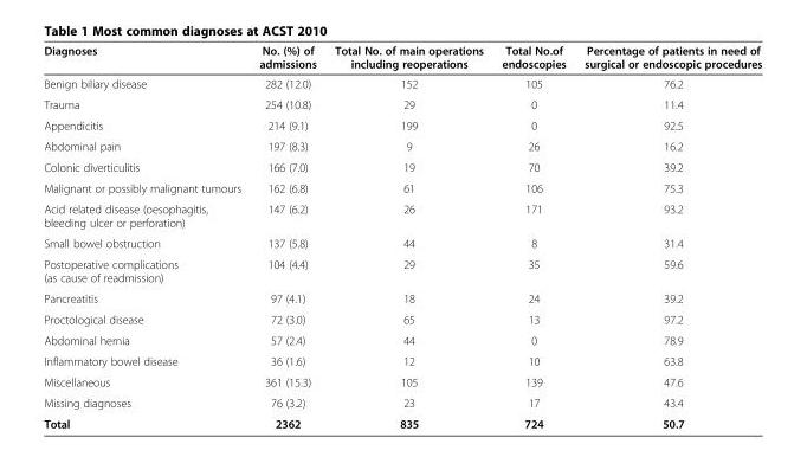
<table><thead><tr><td>Diagnoses</td><td>No. (%) of admissions</td><td>Total No. of main operations including reoperations</td><td>Total No.of endoscopies</td><td>Percentage of patients in need of surgical or endoscopic procedures</td></tr></thead><tbody><tr><td>Benign biliary disease</td><td>282 (12.0)</td><td>152</td><td>105</td><td>76.2</td></tr><tr><td>Trauma</td><td>254 (10.8)</td><td>29</td><td>0</td><td>11.4</td></tr><tr><td>Appendicitis</td><td>214 (9.1)</td><td>199</td><td>0</td><td>92.5</td></tr><tr><td>Abdominal pain</td><td>197 (8.3)</td><td>9</td><td>26</td><td>16.2</td></tr><tr><td>Colonic diverticulitis</td><td>166 (7.0)</td><td>19</td><td>70</td><td>39.2</td></tr><tr><td>Malignant or possibly malignant tumours</td><td>162 (6.8)</td><td>61</td><td>106</td><td>75.3</td></tr><tr><td>Acid related disease (oesophagitis, bleeding ulcer or perforation)</td><td>147 (6.2)</td><td>26</td><td>171</td><td>93.2</td></tr><tr><td>Small bowel obstruction</td><td>137 (5.8)</td><td>44</td><td>8</td><td>31.4</td></tr><tr><td>Postoperative complications (as cause of readmission)</td><td>104 (4.4)</td><td>29</td><td>35</td><td>59.6</td></tr><tr><td>Pancreatitis</td><td>97 (4.1)</td><td>18</td><td>24</td><td>39.2</td></tr><tr><td>Proctological disease</td><td>72 (3.0)</td><td>65</td><td>13</td><td>97.2</td></tr><tr><td>Abdominal hernia</td><td>57 (2.4)</td><td>44</td><td>0</td><td>78.9</td></tr><tr><td>Inflammatory bowel disease</td><td>36 (1.6)</td><td>12</td><td>10</td><td>63.8</td></tr><tr><td>Miscellaneous</td><td>361 (15.3)</td><td>105</td><td>139</td><td>47.6</td></tr><tr><td>Missing diagnoses</td><td>76 (3.2)</td><td>23</td><td>17</td><td>43.4</td></tr><tr><td>Total</td><td>2362</td><td>835</td><td>724</td><td>50.7</td></tr></tbody></table>